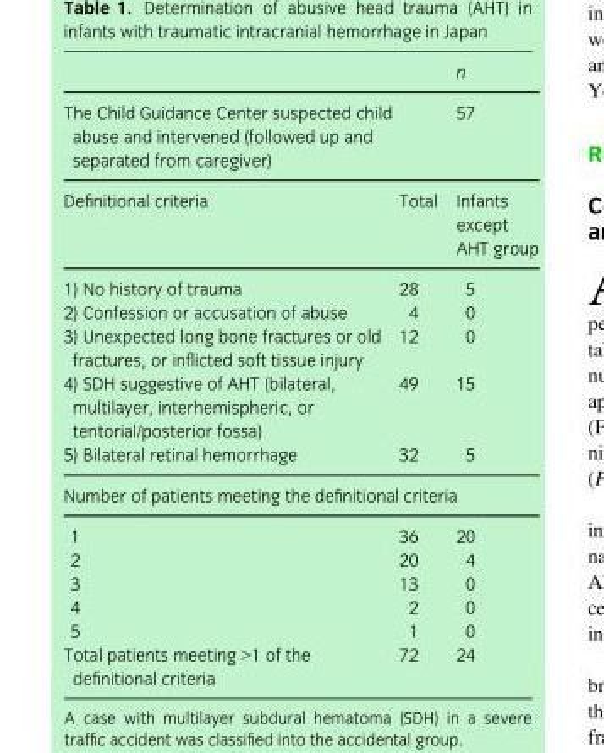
<table><thead><tr><td></td><td></td><td>n</td></tr></thead><tbody><tr><td colspan="2">The Child Guidance Center suspected child abuse and intervened (followed up and separated from caregiver)</td><td>57</td></tr><tr><td>Definitional criteria</td><td>Total</td><td>Infants except AHT group</td></tr><tr><td>1) No history of trauma</td><td>28</td><td>5</td></tr><tr><td>2) Confession or accusation of abuse</td><td>4</td><td>0</td></tr><tr><td>3) Unexpected long bone fractures or old fractures, or inflicted soft tissue injury</td><td>12</td><td>0</td></tr><tr><td>4) SDH suggestive of AHT (bilateral, multilayer, interhemispheric, or tentorial/posterior fossa)</td><td>49</td><td>15</td></tr><tr><td>5) Bilateral retinal hemorrhage</td><td>32</td><td>5</td></tr><tr><td colspan="3">Number of patients meeting the definitional criteria</td></tr><tr><td>1</td><td>36</td><td>20</td></tr><tr><td>2</td><td>20</td><td>4</td></tr><tr><td>3</td><td>13</td><td>0</td></tr><tr><td>4</td><td>2</td><td>0</td></tr><tr><td>5</td><td>1</td><td>0</td></tr><tr><td>Total patients meeting &gt;1 of the definitional criteria</td><td>72</td><td>24</td></tr></tbody></table>